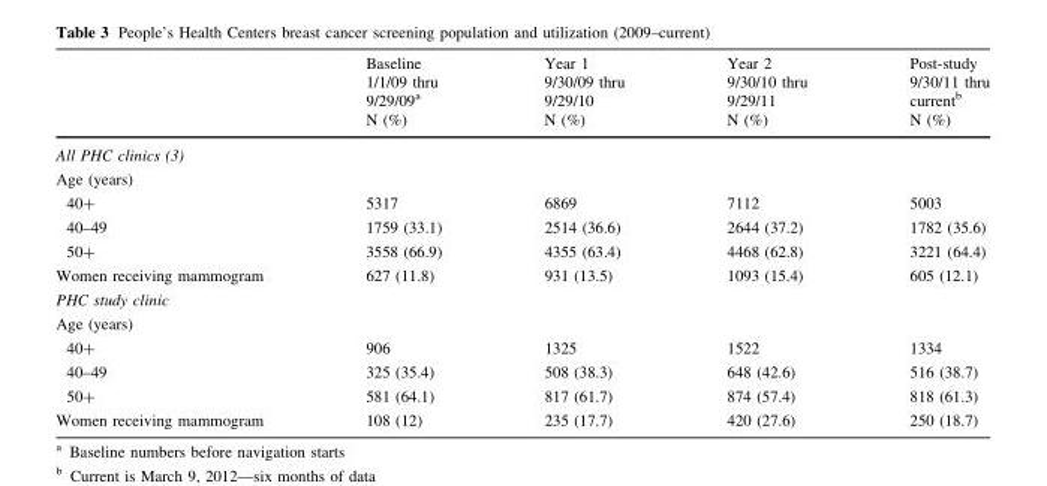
<table><thead><tr><td rowspan="3"></td><td rowspan="3">Baseline 1/1/09 thru 9/29/09<sup>a</sup> N (%)</td><td rowspan="3">Year 1 9/30/09 thru 9/29/10 N (%)</td><td rowspan="3">Year 2 9/30/10 thru 9/29/11 N (%)</td><td rowspan="3">Post-study 9/30/11 thru current<sup>b</sup> N (%)</td></tr><tr></tr><tr></tr></thead><tbody><tr><td colspan="5">All PHC clinics (3)</td></tr><tr><td colspan="5">Age (years)</td></tr><tr><td>40+</td><td>5317</td><td>6869</td><td>7112</td><td>5003</td></tr><tr><td>40–49</td><td>1759 (33.1)</td><td>2514 (36.6)</td><td>2644 (37.2)</td><td>1782 (35.6)</td></tr><tr><td>50+</td><td>3558 (66.9)</td><td>4355 (63.4)</td><td>4468 (62.8)</td><td>3221 (64.4)</td></tr><tr><td>Women receiving mammogram</td><td>627 (11.8)</td><td>931 (13.5)</td><td>1093 (15.4)</td><td>605 (12.1)</td></tr><tr><td colspan="5">PHC study clinic</td></tr><tr><td colspan="5">Age (years)</td></tr><tr><td>40+</td><td>906</td><td>1325</td><td>1522</td><td>1334</td></tr><tr><td>40–49</td><td>325 (35.4)</td><td>508 (38.3)</td><td>648 (42.6)</td><td>516 (38.7)</td></tr><tr><td>50+</td><td>581 (64.1)</td><td>817 (61.7)</td><td>874 (57.4)</td><td>818 (61.3)</td></tr><tr><td>Women receiving mammogram</td><td>108 (12)</td><td>235 (17.7)</td><td>420 (27.6)</td><td>250 (18.7)</td></tr></tbody></table>